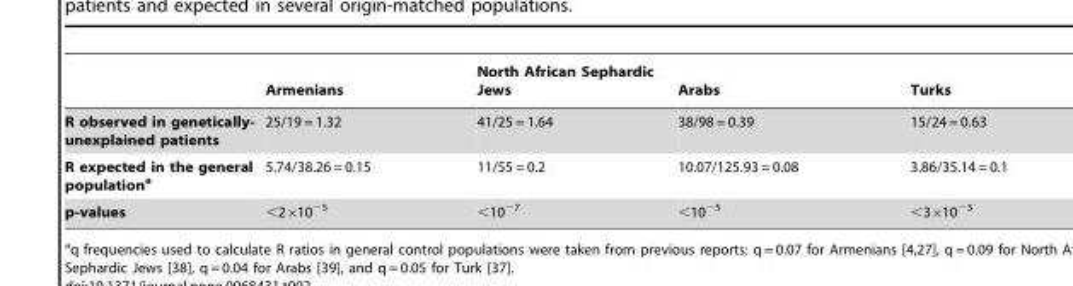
<table><thead><tr><td></td><td>Armenians</td><td>North African Sephardic Jews</td><td>Arabs</td><td>Turks</td></tr></thead><tbody><tr><td>R observed in genetically- unexplained patients</td><td>25/19 = 1.32</td><td>41/25 = 1.64</td><td>38/98 = 0.39</td><td>15/24 = 0.63</td></tr><tr><td>R expected in the general populationa</td><td>5.74/38.26 = 0.15</td><td>11/55 = 0.2</td><td>10.07/125.93 = 0.08</td><td>3.86/35.14 = 0.1</td></tr><tr><td>p-values</td><td>&lt;2×10<sup>−5</sup></td><td>&lt;10<sup>−7</sup></td><td>&lt;10<sup>−5</sup></td><td>&lt;3×10<sup>−3</sup></td></tr></tbody></table>